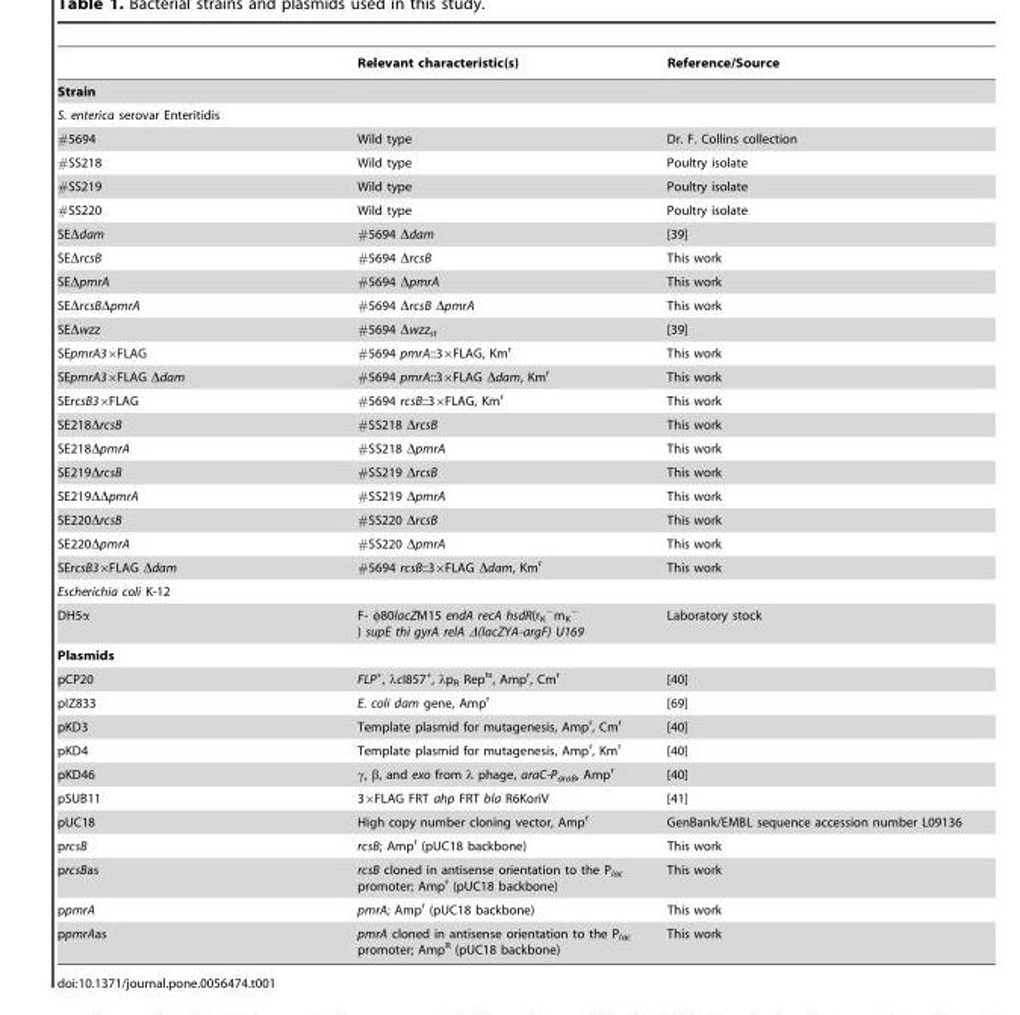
<table><thead><tr><td></td><td>Relevant characteristic(s)</td><td>Reference/Source</td></tr></thead><tbody><tr><td colspan="3">Strain</td></tr><tr><td colspan="3">S. enterica serovar Enteritidis</td></tr><tr><td>#5694</td><td>Wild type</td><td>Dr. F. Collins collection</td></tr><tr><td>#SS218</td><td>Wild type</td><td>Poultry isolate</td></tr><tr><td>#SS219</td><td>Wild type</td><td>Poultry isolate</td></tr><tr><td>#SS220</td><td>Wild type</td><td>Poultry isolate</td></tr><tr><td>SEΔdam</td><td>#5694 Δdam</td><td>[39]</td></tr><tr><td>SEΔrcsB</td><td>#5694 ΔrcsB</td><td>This work</td></tr><tr><td>SEΔpmrA</td><td>#5694 ΔpmrA</td><td>This work</td></tr><tr><td>SEΔrcsBΔpmrA</td><td>#5694 ΔrcsB ΔpmrA</td><td>This work</td></tr><tr><td>SEΔwzz</td><td>#5694 Δwzz<sub>st</sub></td><td>[39]</td></tr><tr><td>SEpmrA3×FLAG</td><td>#5694 pmrA::3×FLAG, Km<sup>r</sup></td><td>This work</td></tr><tr><td>SEpmrA3×FLAG Δdam</td><td>#5694 pmrA::3×FLAG Δdam, Km<sup>r</sup></td><td>This work</td></tr><tr><td>SErcsB3×FLAG</td><td>#5694 rcsB::3×FLAG, Km<sup>r</sup></td><td>This work</td></tr><tr><td>SE218ΔrcsB</td><td>#SS218 ΔrcsB</td><td>This work</td></tr><tr><td>SE218ΔpmrA</td><td>#SS218 ΔpmrA</td><td>This work</td></tr><tr><td>SE219ΔrcsB</td><td>#SS219 ΔrcsB</td><td>This work</td></tr><tr><td>SE219ΔΔpmrA</td><td>#SS219 ΔpmrA</td><td>This work</td></tr><tr><td>SE220ΔrcsB</td><td>#SS220 ΔrcsB</td><td>This work</td></tr><tr><td>SE220ΔpmrA</td><td>#SS220 ΔpmrA</td><td>This work</td></tr><tr><td>SErcsB3×FLAG Δdam</td><td>#5694 rcsB::3×FLAG Δdam, Km<sup>r</sup></td><td>This work</td></tr><tr><td colspan="3">Escherichia coli K-12</td></tr><tr><td>DH5α</td><td>F- φ80lacZM15 endA recA hsdR(r<sub>K</sub> <sup>−</sup>m<sub>K</sub> <sup>−</sup> ) supE thi gyrA relA Δ(lacZYA-argF) U169</td><td>Laboratory stock</td></tr><tr><td colspan="3">Plasmids</td></tr><tr><td>pCP20</td><td>FLP<sup>+</sup>, λcI857<sup>+</sup>, λp<sub>R</sub> Rep<sup>ts</sup>, Amp<sup>r</sup>, Cm<sup>r</sup></td><td>[40]</td></tr><tr><td>pIZ833</td><td>E. coli dam gene, Amp<sup>r</sup></td><td>[69]</td></tr><tr><td>pKD3</td><td>Template plasmid for mutagenesis, Amp<sup>r</sup>, Cm<sup>r</sup></td><td>[40]</td></tr><tr><td>pKD4</td><td>Template plasmid for mutagenesis, Amp<sup>r</sup>, Km<sup>r</sup></td><td>[40]</td></tr><tr><td>pKD46</td><td>γ, β, and exo from λ phage, araC-P<sub>araB</sub>, Amp<sup>r</sup></td><td>[40]</td></tr><tr><td>pSUB11</td><td>3×FLAG FRT ahp FRT bla R6KoriV</td><td>[41]</td></tr><tr><td>pUC18</td><td>High copy number cloning vector, Amp<sup>r</sup></td><td>GenBank/EMBL sequence accession number L09136</td></tr><tr><td>prcsB</td><td>rcsB; Amp<sup>r</sup> (pUC18 backbone)</td><td>This work</td></tr><tr><td>prcsBas</td><td>rcsB cloned in antisense orientation to the P<sub>lac</sub> promoter; Amp<sup>r</sup> (pUC18 backbone)</td><td>This work</td></tr><tr><td>ppmrA</td><td>pmrA; Amp<sup>r</sup> (pUC18 backbone)</td><td>This work</td></tr><tr><td>ppmrAas</td><td>pmrA cloned in antisense orientation to the P<sub>lac</sub> promoter; Amp<sup>R</sup> (pUC18 backbone)</td><td>This work</td></tr></tbody></table>